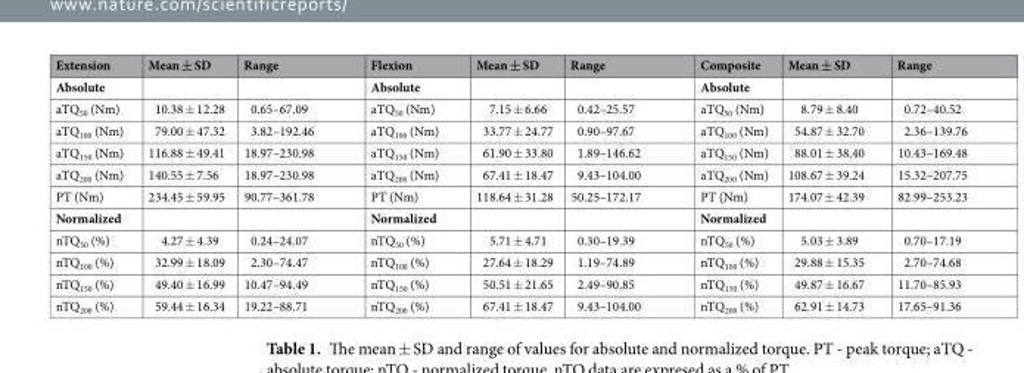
<table><thead><tr><td>Extension</td><td>Mean ± SD</td><td>Range</td><td>Flexion</td><td>Mean ± SD</td><td>Range</td><td>Composite</td><td>Mean ± SD</td><td>Range</td></tr></thead><tbody><tr><td>Absolute</td><td></td><td></td><td>Absolute</td><td></td><td></td><td>Absolute</td><td></td><td></td></tr><tr><td>aTQ<sub>50</sub> (Nm)</td><td>10.38 ± 12.28</td><td>0.65–67.09</td><td>aTQ<sub>50</sub> (Nm)</td><td>7.15 ± 6.66</td><td>0.42–25.57</td><td>aTQ<sub>50</sub> (Nm)</td><td>8.79 ± 8.40</td><td>0.72–40.52</td></tr><tr><td>aTQ<sub>100</sub> (Nm)</td><td>79.00 ± 47.32</td><td>3.82–192.46</td><td>aTQ<sub>100</sub> (Nm)</td><td>33.77 ± 24.77</td><td>0.90–97.67</td><td>aTQ<sub>100</sub> (Nm)</td><td>54.87 ± 32.70</td><td>2.36–139.76</td></tr><tr><td>aTQ<sub>150</sub> (Nm)</td><td>116.88 ± 49.41</td><td>18.97–230.98</td><td>aTQ<sub>150</sub> (Nm)</td><td>61.90 ± 33.80</td><td>1.89–146.62</td><td>aTQ<sub>150</sub> (Nm)</td><td>88.01 ± 38.40</td><td>10.43–169.48</td></tr><tr><td>aTQ<sub>200</sub> (Nm)</td><td>140.55 ± 7.56</td><td>18.97–230.98</td><td>aTQ<sub>200</sub> (Nm)</td><td>67.41 ± 18.47</td><td>9.43–104.00</td><td>aTQ<sub>200</sub> (Nm)</td><td>108.67 ± 39.24</td><td>15.32–207.75</td></tr><tr><td>PT (Nm)</td><td>234.45 ± 59.95</td><td>90.77–361.78</td><td>PT (Nm)</td><td>118.64 ± 31.28</td><td>50.25–172.17</td><td>PT (Nm)</td><td>174.07 ± 42.39</td><td>82.99–253.23</td></tr><tr><td>Normalized</td><td></td><td></td><td>Normalized</td><td></td><td></td><td>Normalized</td><td></td><td></td></tr><tr><td>nTQ<sub>50</sub> (%)</td><td>4.27 ± 4.39</td><td>0.24–24.07</td><td>nTQ<sub>50</sub> (%)</td><td>5.71 ± 4.71</td><td>0.30–19.39</td><td>nTQ<sub>50</sub> (%)</td><td>5.03 ± 3.89</td><td>0.70–17.19</td></tr><tr><td>nTQ<sub>100</sub> (%)</td><td>32.99 ± 18.09</td><td>2.30–74.47</td><td>nTQ<sub>100</sub> (%)</td><td>27.64 ± 18.29</td><td>1.19–74.89</td><td>nTQ<sub>100</sub> (%)</td><td>29.88 ± 15.35</td><td>2.70–74.68</td></tr><tr><td>nTQ<sub>150</sub> (%)</td><td>49.40 ± 16.99</td><td>10.47–94.49</td><td>nTQ<sub>150</sub> (%)</td><td>50.51 ± 21.65</td><td>2.49–90.85</td><td>nTQ<sub>150</sub> (%)</td><td>49.87 ± 16.67</td><td>11.70–85.93</td></tr><tr><td>nTQ<sub>200</sub> (%)</td><td>59.44 ± 16.34</td><td>19.22–88.71</td><td>nTQ<sub>200</sub> (%)</td><td>67.41 ± 18.47</td><td>9.43–104.00</td><td>nTQ<sub>200</sub> (%)</td><td>62.91 ± 14.73</td><td>17.65–91.36</td></tr></tbody></table>